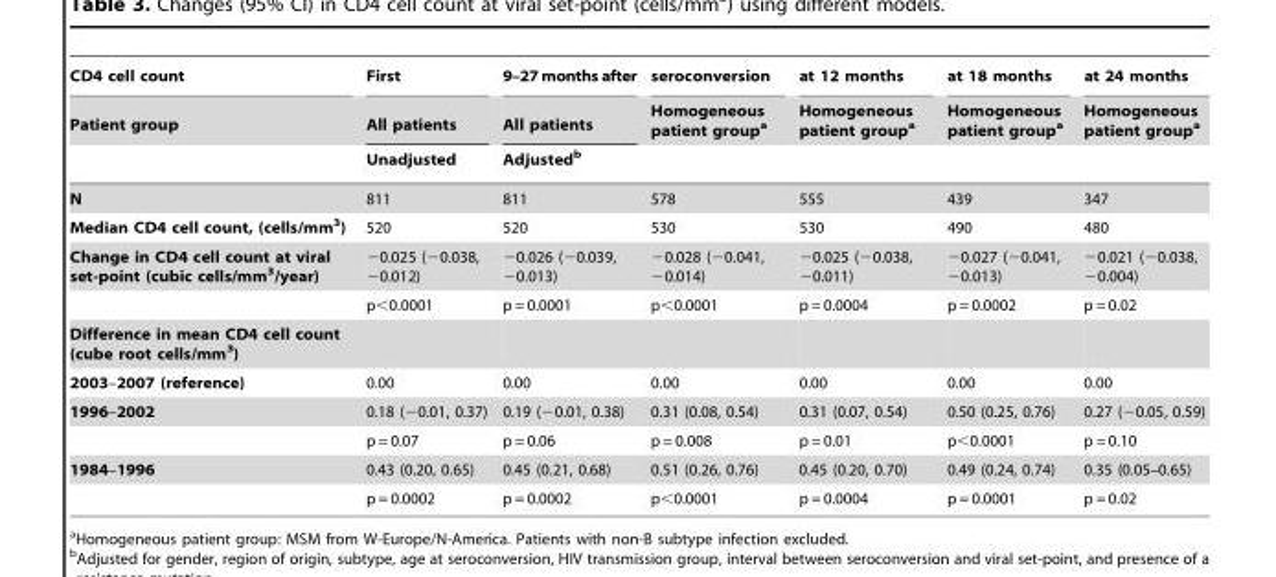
<table><thead><tr><td rowspan="3">CD4 cell count Patient group</td><td rowspan="3">First All patients Unadjusted</td><td rowspan="3">9–27 months after All patients Adjusted<sup>b</sup></td><td rowspan="3">seroconversion Homogeneous patient group<sup>a</sup></td><td rowspan="3">at 12 months Homogeneous patient group<sup>a</sup></td><td rowspan="3">at 18 months Homogeneous patient group<sup>a</sup></td><td rowspan="3">at 24 months Homogeneous patient group<sup>a</sup></td></tr><tr></tr><tr></tr></thead><tbody><tr><td>N</td><td>811</td><td>811</td><td>578</td><td>555</td><td>439</td><td>347</td></tr><tr><td>Median CD4 cell count, (cells/mm<sup>3</sup>)</td><td>520</td><td>520</td><td>530</td><td>530</td><td>490</td><td>480</td></tr><tr><td rowspan="2">Change in CD4 cell count at viral set-point (cubic cells/mm<sup>3</sup>/year)</td><td>−0.025 (−0.038, −0.012)</td><td>−0.026 (−0.039, −0.013)</td><td>−0.028 (−0.041, −0.014)</td><td>−0.025 (−0.038, −0.011)</td><td>−0.027 (−0.041, −0.013)</td><td>−0.021 (−0.038, −0.004)</td></tr><tr><td>p&lt;0.0001</td><td>p = 0.0001</td><td>p&lt;0.0001</td><td>p = 0.0004</td><td>p = 0.0002</td><td>p = 0.02</td></tr><tr><td colspan="7">Difference in mean CD4 cell count (cube root cells/mm<sup>3</sup>)</td></tr><tr><td>2003–2007 (reference)</td><td>0.00</td><td>0.00</td><td>0.00</td><td>0.00</td><td>0.00</td><td>0.00</td></tr><tr><td rowspan="2">1996–2002</td><td>0.18 (−0.01, 0.37)</td><td>0.19 (−0.01, 0.38)</td><td>0.31 (0.08, 0.54)</td><td>0.31 (0.07, 0.54)</td><td>0.50 (0.25, 0.76)</td><td>0.27 (−0.05, 0.59)</td></tr><tr><td>p = 0.07</td><td>p = 0.06</td><td>p = 0.008</td><td>p = 0.01</td><td>p&lt;0.0001</td><td>p = 0.10</td></tr><tr><td rowspan="2">1984–1996</td><td>0.43 (0.20, 0.65)</td><td>0.45 (0.21, 0.68)</td><td>0.51 (0.26, 0.76)</td><td>0.45 (0.20, 0.70)</td><td>0.49 (0.24, 0.74)</td><td>0.35 (0.05–0.65)</td></tr><tr><td>p = 0.0002</td><td>p = 0.0002</td><td>p&lt;0.0001</td><td>p = 0.0004</td><td>p = 0.0001</td><td>p = 0.02</td></tr></tbody></table>